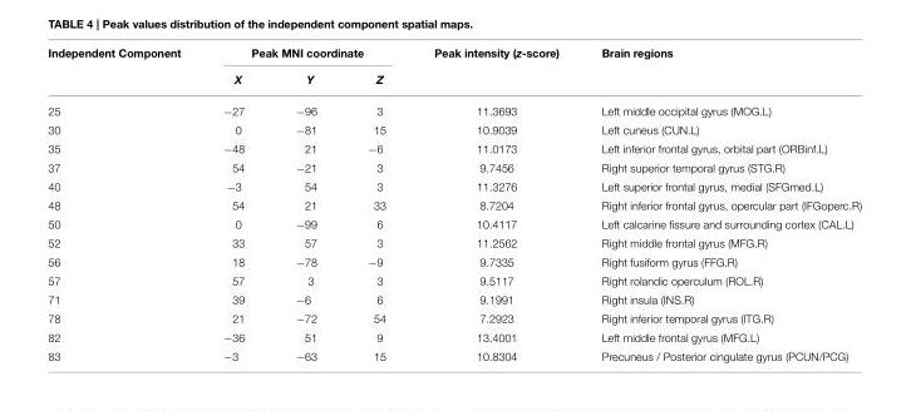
<table><thead><tr><td rowspan="2">Independent Component</td><td colspan="3">Peak MNI coordinate</td><td rowspan="2">Peak intensity (z-score)</td><td rowspan="2">Brain regions</td></tr><tr><td>X</td><td>Y</td><td>Z</td></tr></thead><tbody><tr><td>25</td><td>−27</td><td>−96</td><td>3</td><td>11.3693</td><td>Left middle occipital gyrus (MOG.L)</td></tr><tr><td>30</td><td>0</td><td>−81</td><td>15</td><td>10.9039</td><td>Left cuneus (CUN.L)</td></tr><tr><td>35</td><td>−48</td><td>21</td><td>−6</td><td>11.0173</td><td>Left inferior frontal gyrus, orbital part (ORBinf.L)</td></tr><tr><td>37</td><td>54</td><td>−21</td><td>3</td><td>9.7456</td><td>Right superior temporal gyrus (STG.R)</td></tr><tr><td>40</td><td>−3</td><td>54</td><td>3</td><td>11.3276</td><td>Left superior frontal gyrus, medial (SFGmed.L)</td></tr><tr><td>48</td><td>54</td><td>21</td><td>33</td><td>8.7204</td><td>Right inferior frontal gyrus, opercular part (IFGoperc.R)</td></tr><tr><td>50</td><td>0</td><td>−99</td><td>6</td><td>10.4117</td><td>Left calcarine fissure and surrounding cortex (CAL.L)</td></tr><tr><td>52</td><td>33</td><td>57</td><td>3</td><td>11.2562</td><td>Right middle frontal gyrus (MFG.R)</td></tr><tr><td>56</td><td>18</td><td>−78</td><td>−9</td><td>9.7335</td><td>Right fusiform gyrus (FFG.R)</td></tr><tr><td>57</td><td>57</td><td>3</td><td>3</td><td>9.5117</td><td>Right rolandic operculum (ROL.R)</td></tr><tr><td>71</td><td>39</td><td>−6</td><td>6</td><td>9.1991</td><td>Right insula (INS.R)</td></tr><tr><td>78</td><td>21</td><td>−72</td><td>54</td><td>7.2923</td><td>Right inferior temporal gyrus (ITG.R)</td></tr><tr><td>82</td><td>−36</td><td>51</td><td>9</td><td>13.4001</td><td>Left middle frontal gyrus (MFG.L)</td></tr><tr><td>83</td><td>−3</td><td>−63</td><td>15</td><td>10.8304</td><td>Precuneus / Posterior cingulate gyrus (PCUN/PCG)</td></tr></tbody></table>